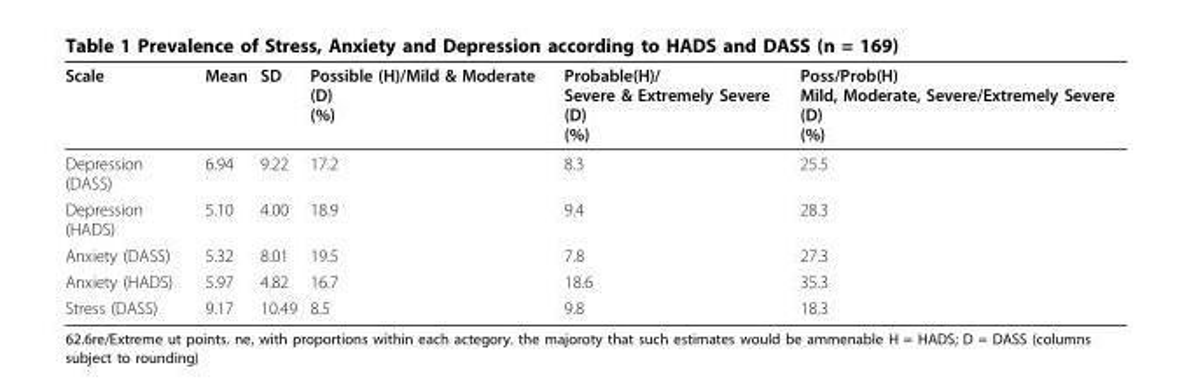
<table><thead><tr><td>Scale</td><td>Mean</td><td>SD</td><td>Possible (H)/Mild &amp; Moderate (D) (%)</td><td>Probable(H)/ Severe &amp; Extremely Severe (D) (%)</td><td>Poss/Prob(H) Mild, Moderate, Severe/Extremely Severe (D) (%)</td></tr></thead><tbody><tr><td>Depression (DASS)</td><td>6.94</td><td>9.22</td><td>17.2</td><td>8.3</td><td>25.5</td></tr><tr><td>Depression (HADS)</td><td>5.10</td><td>4.00</td><td>18.9</td><td>9.4</td><td>28.3</td></tr><tr><td>Anxiety (DASS)</td><td>5.32</td><td>8.01</td><td>19.5</td><td>7.8</td><td>27.3</td></tr><tr><td>Anxiety (HADS)</td><td>5.97</td><td>4.82</td><td>16.7</td><td>18.6</td><td>35.3</td></tr><tr><td>Stress (DASS)</td><td>9.17</td><td>10.49</td><td>8.5</td><td>9.8</td><td>18.3</td></tr></tbody></table>